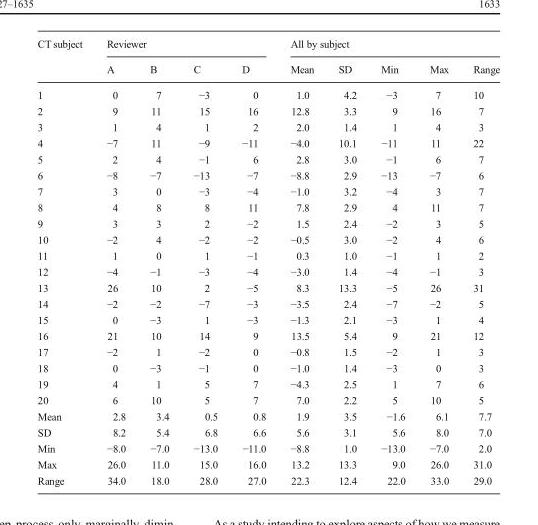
<table><thead><tr><td rowspan="2">CT subject</td><td colspan="4">Reviewer</td><td colspan="5">All by subject</td></tr><tr><td>A</td><td>B</td><td>C</td><td>D</td><td>Mean</td><td>SD</td><td>Min</td><td>Max</td><td>Range</td></tr></thead><tbody><tr><td>1</td><td>0</td><td>7</td><td>−3</td><td>0</td><td>1.0</td><td>4.2</td><td>−3</td><td>7</td><td>10</td></tr><tr><td>2</td><td>9</td><td>11</td><td>15</td><td>16</td><td>12.8</td><td>3.3</td><td>9</td><td>16</td><td>7</td></tr><tr><td>3</td><td>1</td><td>4</td><td>1</td><td>2</td><td>2.0</td><td>1.4</td><td>1</td><td>4</td><td>3</td></tr><tr><td>4</td><td>−7</td><td>11</td><td>−9</td><td>−11</td><td>−4.0</td><td>10.1</td><td>−11</td><td>11</td><td>22</td></tr><tr><td>5</td><td>2</td><td>4</td><td>−1</td><td>6</td><td>2.8</td><td>3.0</td><td>−1</td><td>6</td><td>7</td></tr><tr><td>6</td><td>−8</td><td>−7</td><td>−13</td><td>−7</td><td>−8.8</td><td>2.9</td><td>−13</td><td>−7</td><td>6</td></tr><tr><td>7</td><td>3</td><td>0</td><td>−3</td><td>−4</td><td>−1.0</td><td>3.2</td><td>−4</td><td>3</td><td>7</td></tr><tr><td>8</td><td>4</td><td>8</td><td>8</td><td>11</td><td>7.8</td><td>2.9</td><td>4</td><td>11</td><td>7</td></tr><tr><td>9</td><td>3</td><td>3</td><td>2</td><td>−2</td><td>1.5</td><td>2.4</td><td>−2</td><td>3</td><td>5</td></tr><tr><td>10</td><td>−2</td><td>4</td><td>−2</td><td>−2</td><td>−0.5</td><td>3.0</td><td>−2</td><td>4</td><td>6</td></tr><tr><td>11</td><td>1</td><td>0</td><td>1</td><td>−1</td><td>0.3</td><td>1.0</td><td>−1</td><td>1</td><td>2</td></tr><tr><td>12</td><td>−4</td><td>−1</td><td>−3</td><td>−4</td><td>−3.0</td><td>1.4</td><td>−4</td><td>−1</td><td>3</td></tr><tr><td>13</td><td>26</td><td>10</td><td>2</td><td>−5</td><td>8.3</td><td>13.3</td><td>−5</td><td>26</td><td>31</td></tr><tr><td>14</td><td>−2</td><td>−2</td><td>−7</td><td>−3</td><td>−3.5</td><td>2.4</td><td>−7</td><td>−2</td><td>5</td></tr><tr><td>15</td><td>0</td><td>−3</td><td>1</td><td>−3</td><td>−1.3</td><td>2.1</td><td>−3</td><td>1</td><td>4</td></tr><tr><td>16</td><td>21</td><td>10</td><td>14</td><td>9</td><td>13.5</td><td>5.4</td><td>9</td><td>21</td><td>12</td></tr><tr><td>17</td><td>−2</td><td>1</td><td>−2</td><td>0</td><td>−0.8</td><td>1.5</td><td>−2</td><td>1</td><td>3</td></tr><tr><td>18</td><td>0</td><td>−3</td><td>−1</td><td>0</td><td>−1.0</td><td>1.4</td><td>−3</td><td>0</td><td>3</td></tr><tr><td>19</td><td>4</td><td>1</td><td>5</td><td>7</td><td>−4.3</td><td>2.5</td><td>1</td><td>7</td><td>6</td></tr><tr><td>20</td><td>6</td><td>10</td><td>5</td><td>7</td><td>7.0</td><td>2.2</td><td>5</td><td>10</td><td>5</td></tr><tr><td>Mean</td><td>2.8</td><td>3.4</td><td>0.5</td><td>0.8</td><td>1.9</td><td>3.5</td><td>−1.6</td><td>6.1</td><td>7.7</td></tr><tr><td>SD</td><td>8.2</td><td>5.4</td><td>6.8</td><td>6.6</td><td>5.6</td><td>3.1</td><td>5.6</td><td>8.0</td><td>7.0</td></tr><tr><td>Min</td><td>−8.0</td><td>−7.0</td><td>−13.0</td><td>−11.0</td><td>−8.8</td><td>1.0</td><td>−13.0</td><td>−7.0</td><td>2.0</td></tr><tr><td>Max</td><td>26.0</td><td>11.0</td><td>15.0</td><td>16.0</td><td>13.2</td><td>13.3</td><td>9.0</td><td>26.0</td><td>31.0</td></tr><tr><td>Range</td><td>34.0</td><td>18.0</td><td>28.0</td><td>27.0</td><td>22.3</td><td>12.4</td><td>22.0</td><td>33.0</td><td>29.0</td></tr></tbody></table>